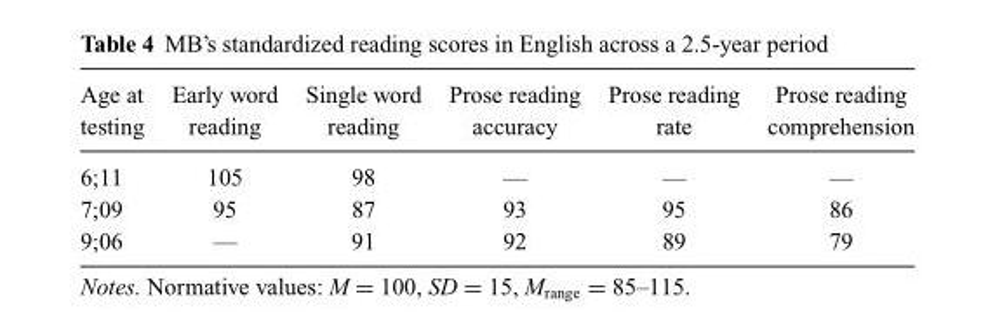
<table><thead><tr><td rowspan="2">Age at testing</td><td rowspan="2">Early word reading</td><td rowspan="2">Single word reading</td><td rowspan="2">Prose reading accuracy</td><td rowspan="2">Prose reading rate</td><td rowspan="2">Prose reading comprehension</td></tr><tr></tr></thead><tbody><tr><td>6;11</td><td>105</td><td>98</td><td>—</td><td>—</td><td>—</td></tr><tr><td>7;09</td><td>95</td><td>87</td><td>93</td><td>95</td><td>86</td></tr><tr><td>9;06</td><td>—</td><td>91</td><td>92</td><td>89</td><td>79</td></tr></tbody></table>